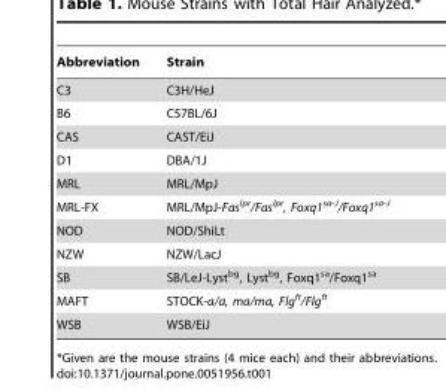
<table><thead><tr><td>Abbreviation</td><td>Strain</td></tr></thead><tbody><tr><td>C3</td><td>C3H/HeJ</td></tr><tr><td>B6</td><td>C57BL/6J</td></tr><tr><td>CAS</td><td>CAST/EiJ</td></tr><tr><td>D1</td><td>DBA/1J</td></tr><tr><td>MRL</td><td>MRL/MpJ</td></tr><tr><td>MRL-FX</td><td>MRL/MpJ-Fas<sup>lpr</sup>/Fas<sup>lpr</sup>, Foxq1<sup>sa-J</sup>/Foxq1<sup>sa-J</sup></td></tr><tr><td>NOD</td><td>NOD/ShiLt</td></tr><tr><td>NZW</td><td>NZW/LacJ</td></tr><tr><td>SB</td><td>SB/LeJ-Lyst<sup>bg</sup>, Lyst<sup>bg</sup>, Foxq1<sup>sa</sup>/Foxq1<sup>sa</sup></td></tr><tr><td>MAFT</td><td>STOCK-a/a, ma/ma, Flg<sup>ft</sup>/Flg<sup>ft</sup></td></tr><tr><td>WSB</td><td>WSB/EiJ</td></tr></tbody></table>